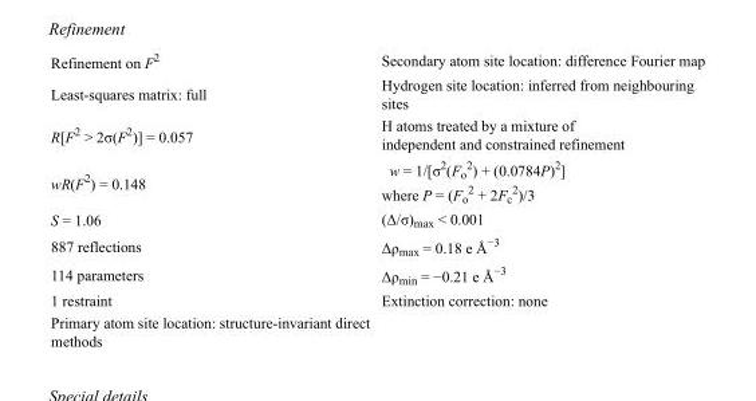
<table><tbody><tr><td>Refinement on F<sup>2</sup></td><td>Secondary atom site location: difference Fourier map</td></tr><tr><td>Least-squares matrix: full</td><td>Hydrogen site location: inferred from neighbouring sites</td></tr><tr><td>R[F<sup>2</sup> &gt; 2σ(F<sup>2</sup>)] = 0.057</td><td>H atoms treated by a mixture of independent and constrained refinement</td></tr><tr><td>wR(F<sup>2</sup>) = 0.148</td><td>w = 1/[σ<sup>2</sup>(F<sub>o</sub> <sup>2</sup>) + (0.0784P)<sup>2</sup>] where P = (F<sub>o</sub> <sup>2</sup> + 2F<sub>c</sub> <sup>2</sup>)/3</td></tr><tr><td>S = 1.06</td><td>(Δ/σ)<sub>max</sub> &lt; 0.001</td></tr><tr><td>887 reflections</td><td>Δρ<sub>max</sub> = 0.18 e Å<sup>−3</sup></td></tr><tr><td>114 parameters</td><td>Δρ<sub>min</sub> = −0.21 e Å<sup>−3</sup></td></tr><tr><td>1 restraint</td><td>Extinction correction: none</td></tr><tr><td>Primary atom site location: structure-invariant direct methods</td><td></td></tr></tbody></table>